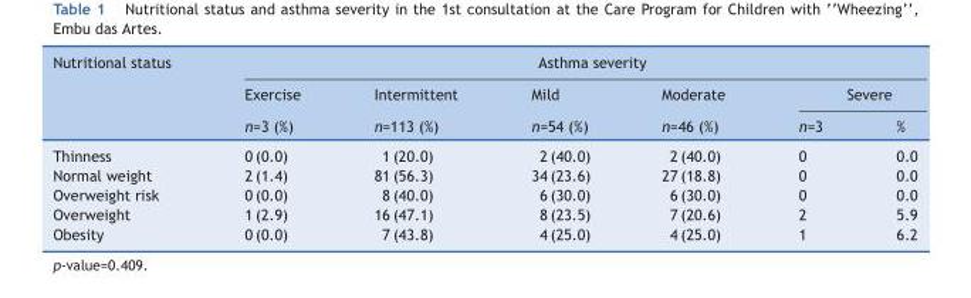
<table><thead><tr><td rowspan="3">Nutritional status</td><td colspan="6">Asthma severity</td></tr><tr><td rowspan="2">Exercise n=3 (%)</td><td rowspan="2">Intermittent n=113 (%)</td><td rowspan="2">Mild n=54 (%)</td><td rowspan="2">Moderate n=46 (%)</td><td colspan="2">Severe</td></tr><tr><td>n=3</td><td>%</td></tr></thead><tbody><tr><td>Thinness</td><td>0 (0.0)</td><td>1 (20.0)</td><td>2 (40.0)</td><td>2 (40.0)</td><td>0</td><td>0.0</td></tr><tr><td>Normal weight</td><td>2 (1.4)</td><td>81 (56.3)</td><td>34 (23.6)</td><td>27 (18.8)</td><td>0</td><td>0.0</td></tr><tr><td>Overweight risk</td><td>0 (0.0)</td><td>8 (40.0)</td><td>6 (30.0)</td><td>6 (30.0)</td><td>0</td><td>0.0</td></tr><tr><td>Overweight</td><td>1 (2.9)</td><td>16 (47.1)</td><td>8 (23.5)</td><td>7 (20.6)</td><td>2</td><td>5.9</td></tr><tr><td>Obesity</td><td>0 (0.0)</td><td>7 (43.8)</td><td>4 (25.0)</td><td>4 (25.0)</td><td>1</td><td>6.2</td></tr></tbody></table>